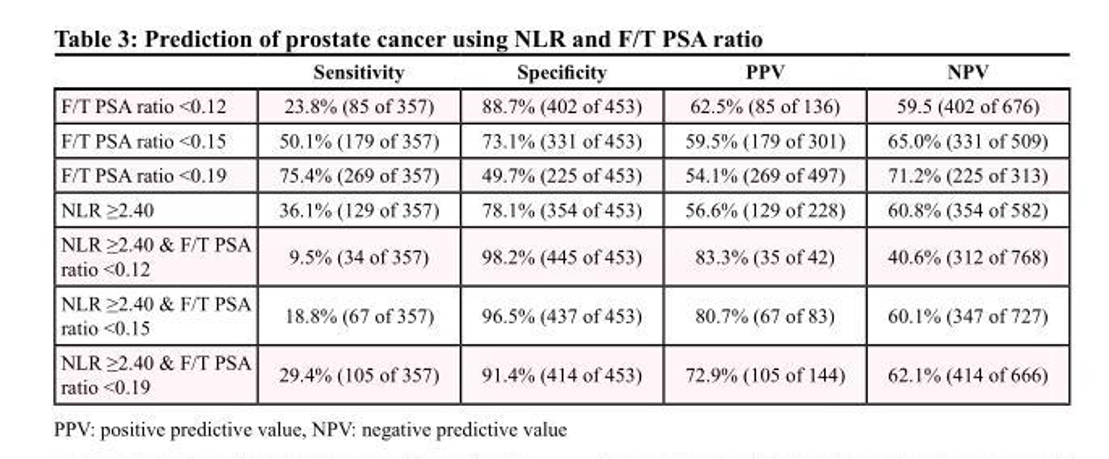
<table><thead><tr><td></td><td>Sensitivity</td><td>Specificity</td><td>PPV</td><td>NPV</td></tr></thead><tbody><tr><td>F/T PSA ratio &lt;0.12</td><td>23.8% (85 of 357)</td><td>88.7% (402 of 453)</td><td>62.5% (85 of 136)</td><td>59.5 (402 of 676)</td></tr><tr><td>F/T PSA ratio &lt;0.15</td><td>50.1% (179 of 357)</td><td>73.1% (331 of 453)</td><td>59.5% (179 of 301)</td><td>65.0% (331 of 509)</td></tr><tr><td>F/T PSA ratio &lt;0.19</td><td>75.4% (269 of 357)</td><td>49.7% (225 of 453)</td><td>54.1% (269 of 497)</td><td>71.2% (225 of 313)</td></tr><tr><td>NLR ≥2.40</td><td>36.1% (129 of 357)</td><td>78.1% (354 of 453)</td><td>56.6% (129 of 228)</td><td>60.8% (354 of 582)</td></tr><tr><td>NLR ≥2.40 &amp; F/T PSA ratio &lt;0.12</td><td>9.5% (34 of 357)</td><td>98.2% (445 of 453)</td><td>83.3% (35 of 42)</td><td>40.6% (312 of 768)</td></tr><tr><td>NLR ≥2.40 &amp; F/T PSA ratio &lt;0.15</td><td>18.8% (67 of 357)</td><td>96.5% (437 of 453)</td><td>80.7% (67 of 83)</td><td>60.1% (347 of 727)</td></tr><tr><td>NLR ≥2.40 &amp; F/T PSA ratio &lt;0.19</td><td>29.4% (105 of 357)</td><td>91.4% (414 of 453)</td><td>72.9% (105 of 144)</td><td>62.1% (414 of 666)</td></tr></tbody></table>